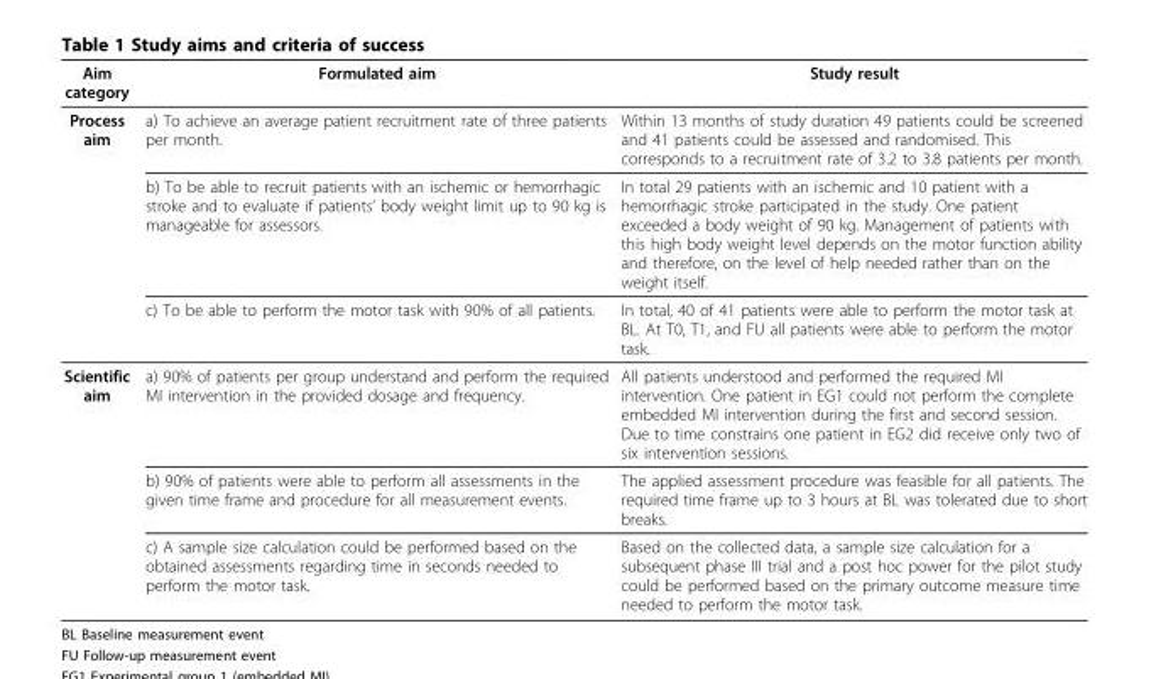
<table><thead><tr><td>Aim category</td><td>Formulated aim</td><td>Study result</td></tr></thead><tbody><tr><td rowspan="3">Process aim</td><td>a) To achieve an average patient recruitment rate of three patients per month.</td><td>Within 13 months of study duration 49 patients could be screened and 41 patients could be assessed and randomised. This corresponds to a recruitment rate of 3.2 to 3.8 patients per month.</td></tr><tr><td>b) To be able to recruit patients with an ischemic or hemorrhagic stroke and to evaluate if patients’ body weight limit up to 90 kg is manageable for assessors.</td><td>In total 29 patients with an ischemic and 10 patient with a hemorrhagic stroke participated in the study. One patient exceeded a body weight of 90 kg. Management of patients with this high body weight level depends on the motor function ability and therefore, on the level of help needed rather than on the weight itself.</td></tr><tr><td>c) To be able to perform the motor task with 90% of all patients.</td><td>In total, 40 of 41 patients were able to perform the motor task at BL. At T0, T1, and FU all patients were able to perform the motor task.</td></tr><tr><td rowspan="3">Scientific aim</td><td>a) 90% of patients per group understand and perform the required MI intervention in the provided dosage and frequency.</td><td>All patients understood and performed the required MI intervention. One patient in EG1 could not perform the complete embedded MI intervention during the first and second session. Due to time constrains one patient in EG2 did receive only two of six intervention sessions.</td></tr><tr><td>b) 90% of patients were able to perform all assessments in the given time frame and procedure for all measurement events.</td><td>The applied assessment procedure was feasible for all patients. The required time frame up to 3 hours at BL was tolerated due to short breaks.</td></tr><tr><td>c) A sample size calculation could be performed based on the obtained assessments regarding time in seconds needed to perform the motor task.</td><td>Based on the collected data, a sample size calculation for a subsequent phase III trial and a post hoc power for the pilot study could be performed based on the primary outcome measure time needed to perform the motor task.</td></tr></tbody></table>